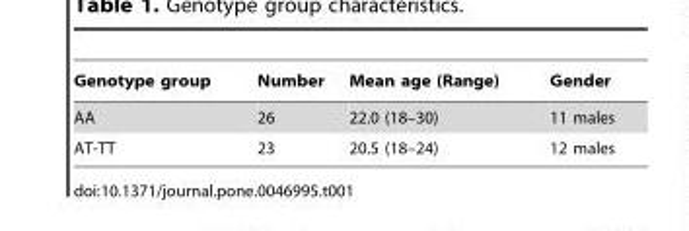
<table><thead><tr><td>Genotype group</td><td>Number</td><td>Mean age (Range)</td><td>Gender</td></tr></thead><tbody><tr><td>AA</td><td>26</td><td>22.0 (18–30)</td><td>11 males</td></tr><tr><td>AT-TT</td><td>23</td><td>20.5 (18–24)</td><td>12 males</td></tr></tbody></table>